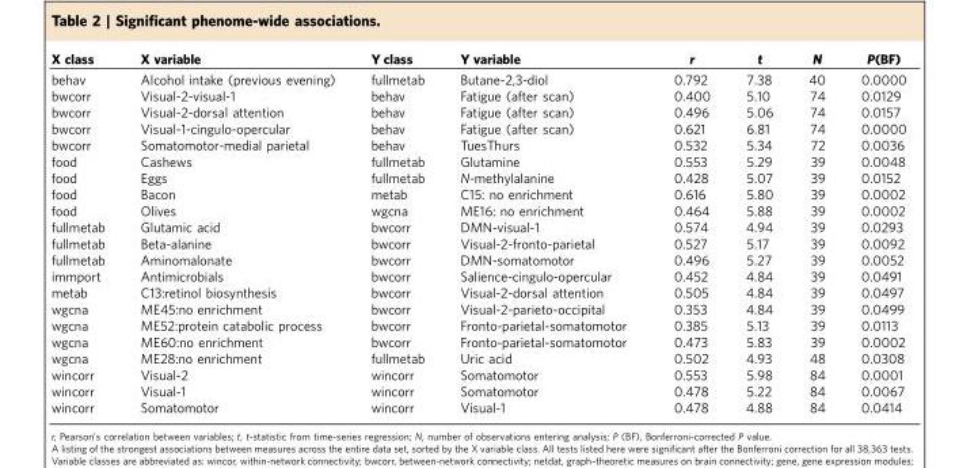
<table><thead><tr><td>X class</td><td>X variable</td><td>Y class</td><td>Y variable</td><td>r</td><td>t</td><td>N</td><td>P(BF)</td></tr></thead><tbody><tr><td>behav</td><td>Alcohol intake (previous evening)</td><td>fullmetab</td><td>Butane-2,3-diol</td><td>0.792</td><td>7.38</td><td>40</td><td>0.0000</td></tr><tr><td>bwcorr</td><td>Visual-2-visual-1</td><td>behav</td><td>Fatigue (after scan)</td><td>0.400</td><td>5.10</td><td>74</td><td>0.0129</td></tr><tr><td>bwcorr</td><td>Visual-2-dorsal attention</td><td>behav</td><td>Fatigue (after scan)</td><td>0.496</td><td>5.06</td><td>74</td><td>0.0157</td></tr><tr><td>bwcorr</td><td>Visual-1-cingulo-opercular</td><td>behav</td><td>Fatigue (after scan)</td><td>0.621</td><td>6.81</td><td>74</td><td>0.0000</td></tr><tr><td>bwcorr</td><td>Somatomotor-medial parietal</td><td>behav</td><td>TuesThurs</td><td>0.532</td><td>5.34</td><td>72</td><td>0.0036</td></tr><tr><td>food</td><td>Cashews</td><td>fullmetab</td><td>Glutamine</td><td>0.553</td><td>5.29</td><td>39</td><td>0.0048</td></tr><tr><td>food</td><td>Eggs</td><td>fullmetab</td><td>N-methylalanine</td><td>0.428</td><td>5.07</td><td>39</td><td>0.0152</td></tr><tr><td>food</td><td>Bacon</td><td>metab</td><td>C15: no enrichment</td><td>0.616</td><td>5.80</td><td>39</td><td>0.0002</td></tr><tr><td>food</td><td>Olives</td><td>wgcna</td><td>ME16: no enrichment</td><td>0.464</td><td>5.88</td><td>39</td><td>0.0002</td></tr><tr><td>fullmetab</td><td>Glutamic acid</td><td>bwcorr</td><td>DMN-visual-1</td><td>0.574</td><td>4.94</td><td>39</td><td>0.0293</td></tr><tr><td>fullmetab</td><td>Beta-alanine</td><td>bwcorr</td><td>Visual-2-fronto-parietal</td><td>0.527</td><td>5.17</td><td>39</td><td>0.0092</td></tr><tr><td>fullmetab</td><td>Aminomalonate</td><td>bwcorr</td><td>DMN-somatomotor</td><td>0.496</td><td>5.27</td><td>39</td><td>0.0052</td></tr><tr><td>immport</td><td>Antimicrobials</td><td>bwcorr</td><td>Salience-cingulo-opercular</td><td>0.452</td><td>4.84</td><td>39</td><td>0.0491</td></tr><tr><td>metab</td><td>C13:retinol biosynthesis</td><td>bwcorr</td><td>Visual-2-dorsal attention</td><td>0.505</td><td>4.84</td><td>39</td><td>0.0497</td></tr><tr><td>wgcna</td><td>ME45:no enrichment</td><td>bwcorr</td><td>Visual-2-parieto-occipital</td><td>0.353</td><td>4.84</td><td>39</td><td>0.0499</td></tr><tr><td>wgcna</td><td>ME52:protein catabolic process</td><td>bwcorr</td><td>Fronto-parietal-somatomotor</td><td>0.385</td><td>5.13</td><td>39</td><td>0.0113</td></tr><tr><td>wgcna</td><td>ME60:no enrichment</td><td>bwcorr</td><td>Fronto-parietal-somatomotor</td><td>0.473</td><td>5.83</td><td>39</td><td>0.0002</td></tr><tr><td>wgcna</td><td>ME28:no enrichment</td><td>fullmetab</td><td>Uric acid</td><td>0.502</td><td>4.93</td><td>48</td><td>0.0308</td></tr><tr><td>wincorr</td><td>Visual-2</td><td>wincorr</td><td>Somatomotor</td><td>0.553</td><td>5.98</td><td>84</td><td>0.0001</td></tr><tr><td>wincorr</td><td>Visual-1</td><td>wincorr</td><td>Somatomotor</td><td>0.478</td><td>5.22</td><td>84</td><td>0.0067</td></tr><tr><td>wincorr</td><td>Somatomotor</td><td>wincorr</td><td>Visual-1</td><td>0.478</td><td>4.88</td><td>84</td><td>0.0414</td></tr></tbody></table>